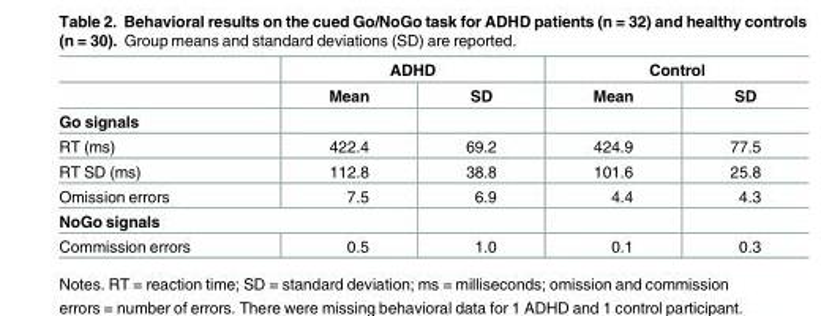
<table><thead><tr><td rowspan="2"></td><td colspan="2">ADHD</td><td colspan="2">Control</td></tr><tr><td>Mean</td><td>SD</td><td>Mean</td><td>SD</td></tr></thead><tbody><tr><td colspan="5">Go signals</td></tr><tr><td>RT (ms)</td><td>422.4</td><td>69.2</td><td>424.9</td><td>77.5</td></tr><tr><td>RT SD (ms)</td><td>112.8</td><td>38.8</td><td>101.6</td><td>25.8</td></tr><tr><td>Omission errors</td><td>7.5</td><td>6.9</td><td>4.4</td><td>4.3</td></tr><tr><td colspan="5">NoGo signals</td></tr><tr><td>Commission errors</td><td>0.5</td><td>1.0</td><td>0.1</td><td>0.3</td></tr></tbody></table>